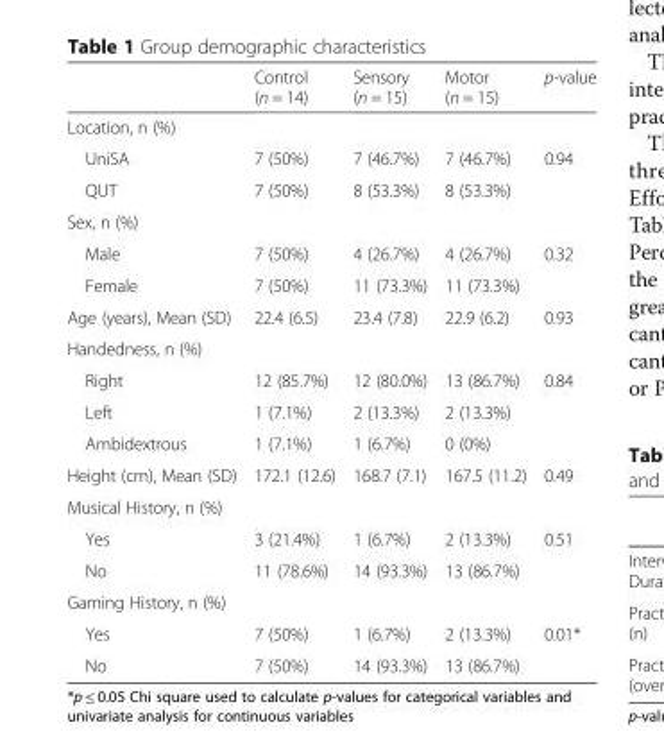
<table><thead><tr><td></td><td>Control (n = 14)</td><td>Sensory (n = 15)</td><td>Motor (n = 15)</td><td>p-value</td></tr></thead><tbody><tr><td colspan="5">Location, n (%)</td></tr><tr><td>UniSA</td><td>7 (50%)</td><td>7 (46.7%)</td><td>7 (46.7%)</td><td rowspan="2">0.94</td></tr><tr><td>QUT</td><td>7 (50%)</td><td>8 (53.3%)</td><td>8 (53.3%)</td></tr><tr><td colspan="5">Sex, n (%)</td></tr><tr><td>Male</td><td>7 (50%)</td><td>4 (26.7%)</td><td>4 (26.7%)</td><td rowspan="2">0.32</td></tr><tr><td>Female</td><td>7 (50%)</td><td>11 (73.3%)</td><td>11 (73.3%)</td></tr><tr><td>Age (years), Mean (SD)</td><td>22.4 (6.5)</td><td>23.4 (7.8)</td><td>22.9 (6.2)</td><td>0.93</td></tr><tr><td colspan="5">Handedness, n (%)</td></tr><tr><td>Right</td><td>12 (85.7%)</td><td>12 (80.0%)</td><td>13 (86.7%)</td><td rowspan="3">0.84</td></tr><tr><td>Left</td><td>1 (7.1%)</td><td>2 (13.3%)</td><td>2 (13.3%)</td></tr><tr><td>Ambidextrous</td><td>1 (7.1%)</td><td>1 (6.7%)</td><td>0 (0%)</td></tr><tr><td>Height (cm), Mean (SD)</td><td>172.1 (12.6)</td><td>168.7 (7.1)</td><td>167.5 (11.2)</td><td>0.49</td></tr><tr><td colspan="5">Musical History, n (%)</td></tr><tr><td>Yes</td><td>3 (21.4%)</td><td>1 (6.7%)</td><td>2 (13.3%)</td><td rowspan="2">0.51</td></tr><tr><td>No</td><td>11 (78.6%)</td><td>14 (93.3%)</td><td>13 (86.7%)</td></tr><tr><td colspan="5">Gaming History, n (%)</td></tr><tr><td>Yes</td><td>7 (50%)</td><td>1 (6.7%)</td><td>2 (13.3%)</td><td rowspan="2">0.01*</td></tr><tr><td>No</td><td>7 (50%)</td><td>14 (93.3%)</td><td>13 (86.7%)</td></tr></tbody></table>